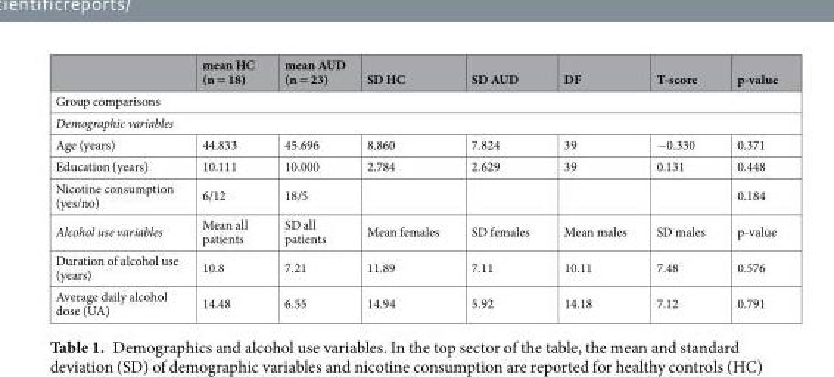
<table><thead><tr><td></td><td>mean HC (n = 18)</td><td>mean AUD (n = 23)</td><td>SD HC</td><td>SD AUD</td><td>DF</td><td>T-score</td><td>p-value</td></tr></thead><tbody><tr><td colspan="8">Group comparisons</td></tr><tr><td colspan="8">Demographic variables</td></tr><tr><td>Age (years)</td><td>44.833</td><td>45.696</td><td>8.860</td><td>7.824</td><td>39</td><td>−0.330</td><td>0.371</td></tr><tr><td>Education (years)</td><td>10.111</td><td>10.000</td><td>2.784</td><td>2.629</td><td>39</td><td>0.131</td><td>0.448</td></tr><tr><td>Nicotine consumption (yes/no)</td><td>6/12</td><td>18/5</td><td></td><td></td><td></td><td></td><td>0.184</td></tr><tr><td>Alcohol use variables</td><td>Mean all patients</td><td>SD all patients</td><td>Mean females</td><td>SD females</td><td>Mean males</td><td>SD males</td><td>p-value</td></tr><tr><td>Duration of alcohol use (years)</td><td>10.8</td><td>7.21</td><td>11.89</td><td>7.11</td><td>10.11</td><td>7.48</td><td>0.576</td></tr><tr><td>Average daily alcohol dose (UA)</td><td>14.48</td><td>6.55</td><td>14.94</td><td>5.92</td><td>14.18</td><td>7.12</td><td>0.791</td></tr></tbody></table>